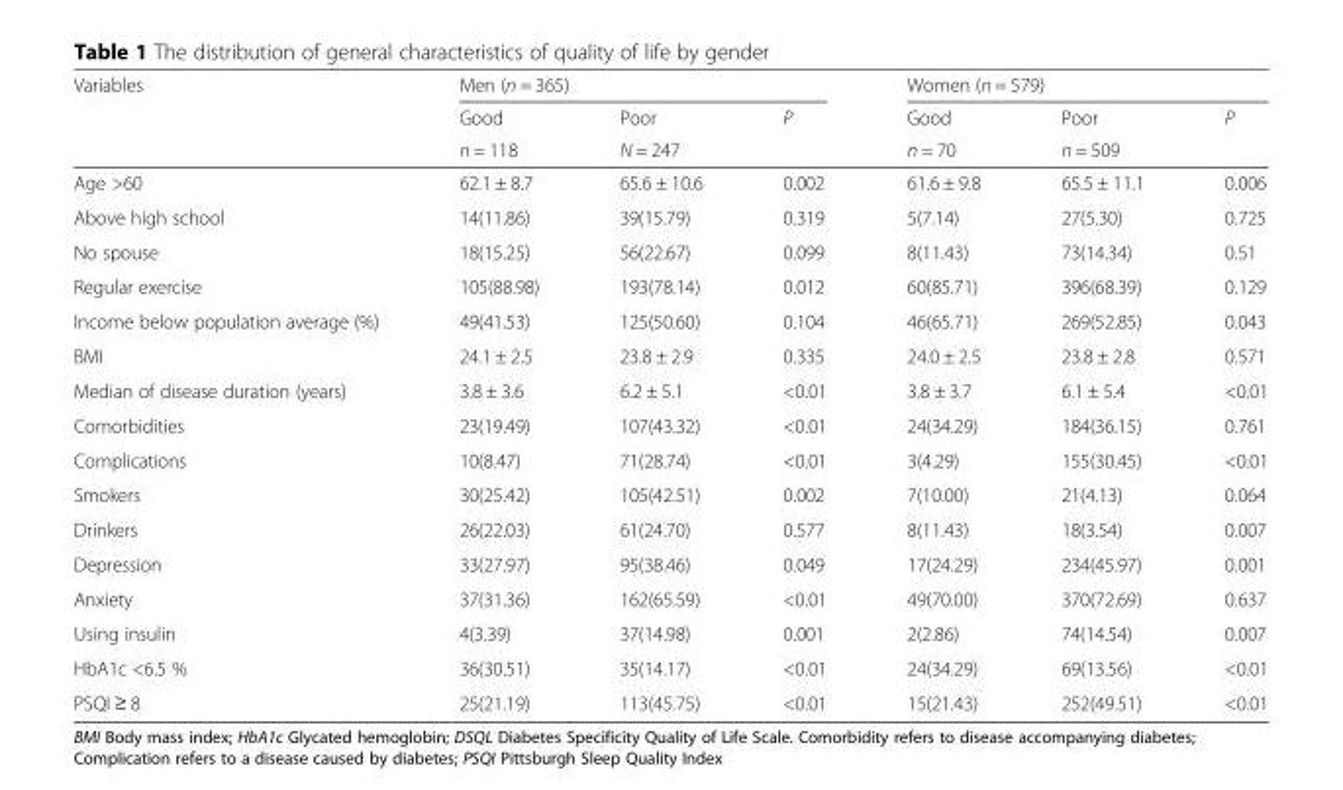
<table><thead><tr><td rowspan="3">Variables</td><td colspan="3">Men (n = 365)</td><td colspan="3">Women (n = 579)</td></tr><tr><td rowspan="2">Good n = 118</td><td rowspan="2">Poor N = 247</td><td rowspan="2">P</td><td rowspan="2">Good n = 70</td><td rowspan="2">Poor n = 509</td><td rowspan="2">P</td></tr><tr></tr></thead><tbody><tr><td>Age &gt;60</td><td>62.1 ± 8.7</td><td>65.6 ± 10.6</td><td>0.002</td><td>61.6 ± 9.8</td><td>65.5 ± 11.1</td><td>0.006</td></tr><tr><td>Above high school</td><td>14(11.86)</td><td>39(15.79)</td><td>0.319</td><td>5(7.14)</td><td>27(5.30)</td><td>0.725</td></tr><tr><td>No spouse</td><td>18(15.25)</td><td>56(22.67)</td><td>0.099</td><td>8(11.43)</td><td>73(14.34)</td><td>0.51</td></tr><tr><td>Regular exercise</td><td>105(88.98)</td><td>193(78.14)</td><td>0.012</td><td>60(85.71)</td><td>396(68.39)</td><td>0.129</td></tr><tr><td>Income below population average (%)</td><td>49(41.53)</td><td>125(50.60)</td><td>0.104</td><td>46(65.71)</td><td>269(52.85)</td><td>0.043</td></tr><tr><td>BMI</td><td>24.1 ± 2.5</td><td>23.8 ± 2.9</td><td>0.335</td><td>24.0 ± 2.5</td><td>23.8 ± 2.8</td><td>0.571</td></tr><tr><td>Median of disease duration (years)</td><td>3.8 ± 3.6</td><td>6.2 ± 5.1</td><td>&lt;0.01</td><td>3.8 ± 3.7</td><td>6.1 ± 5.4</td><td>&lt;0.01</td></tr><tr><td>Comorbidities</td><td>23(19.49)</td><td>107(43.32)</td><td>&lt;0.01</td><td>24(34.29)</td><td>184(36.15)</td><td>0.761</td></tr><tr><td>Complications</td><td>10(8.47)</td><td>71(28.74)</td><td>&lt;0.01</td><td>3(4.29)</td><td>155(30.45)</td><td>&lt;0.01</td></tr><tr><td>Smokers</td><td>30(25.42)</td><td>105(42.51)</td><td>0.002</td><td>7(10.00)</td><td>21(4.13)</td><td>0.064</td></tr><tr><td>Drinkers</td><td>26(22.03)</td><td>61(24.70)</td><td>0.577</td><td>8(11.43)</td><td>18(3.54)</td><td>0.007</td></tr><tr><td>Depression</td><td>33(27.97)</td><td>95(38.46)</td><td>0.049</td><td>17(24.29)</td><td>234(45.97)</td><td>0.001</td></tr><tr><td>Anxiety</td><td>37(31.36)</td><td>162(65.59)</td><td>&lt;0.01</td><td>49(70.00)</td><td>370(72.69)</td><td>0.637</td></tr><tr><td>Using insulin</td><td>4(3.39)</td><td>37(14.98)</td><td>0.001</td><td>2(2.86)</td><td>74(14.54)</td><td>0.007</td></tr><tr><td>HbA1c &lt;6.5 %</td><td>36(30.51)</td><td>35(14.17)</td><td>&lt;0.01</td><td>24(34.29)</td><td>69(13.56)</td><td>&lt;0.01</td></tr><tr><td>PSQI ≥ 8</td><td>25(21.19)</td><td>113(45.75)</td><td>&lt;0.01</td><td>15(21.43)</td><td>252(49.51)</td><td>&lt;0.01</td></tr></tbody></table>